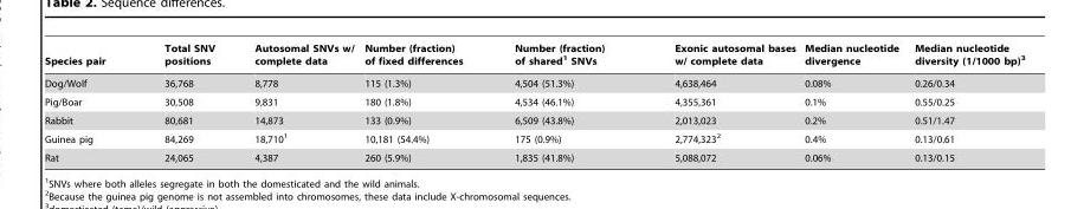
<table><thead><tr><td>Species pair</td><td>Total SNV positions</td><td>Autosomal SNVs w/ complete data</td><td>Number (fraction) of fixed differences</td><td>Number (fraction) of shared<sup>1</sup> SNVs</td><td>Exonic autosomal bases w/ complete data</td><td>Median nucleotide divergence</td><td>Median nucleotide diversity (1/1000 bp)<sup>3</sup></td></tr></thead><tbody><tr><td>Dog/Wolf</td><td>36,768</td><td>8,778</td><td>115 (1.3%)</td><td>4,504 (51.3%)</td><td>4,638,464</td><td>0.08%</td><td>0.26/0.34</td></tr><tr><td>Pig/Boar</td><td>30,508</td><td>9,831</td><td>180 (1.8%)</td><td>4,534 (46.1%)</td><td>4,355,361</td><td>0.1%</td><td>0.55/0.25</td></tr><tr><td>Rabbit</td><td>80,681</td><td>14,873</td><td>133 (0.9%)</td><td>6,509 (43.8%)</td><td>2,013,023</td><td>0.2%</td><td>0.51/1.47</td></tr><tr><td>Guinea pig</td><td>84,269</td><td>18,710<sup>1</sup></td><td>10,181 (54.4%)</td><td>175 (0.9%)</td><td>2,774,323<sup>2</sup></td><td>0.4%</td><td>0.13/0.61</td></tr><tr><td>Rat</td><td>24,065</td><td>4,387</td><td>260 (5.9%)</td><td>1,835 (41.8%)</td><td>5,088,072</td><td>0.06%</td><td>0.13/0.15</td></tr></tbody></table>